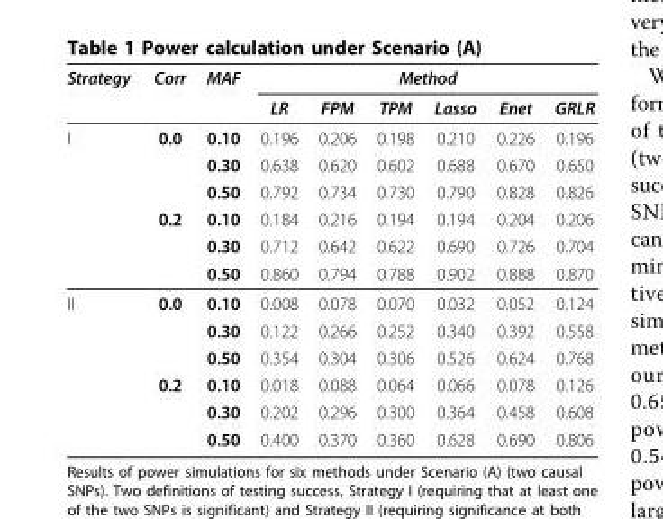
<table><thead><tr><td rowspan="2">Strategy</td><td rowspan="2">Corr</td><td rowspan="2">MAF</td><td colspan="6">Method</td></tr><tr><td>LR</td><td>FPM</td><td>TPM</td><td>Lasso</td><td>Enet</td><td>GRLR</td></tr></thead><tbody><tr><td rowspan="6">I</td><td>0.0</td><td>0.10</td><td>0.196</td><td>0.206</td><td>0.198</td><td>0.210</td><td>0.226</td><td>0.196</td></tr><tr><td></td><td>0.30</td><td>0.638</td><td>0.620</td><td>0.602</td><td>0.688</td><td>0.670</td><td>0.650</td></tr><tr><td></td><td>0.50</td><td>0.792</td><td>0.734</td><td>0.730</td><td>0.790</td><td>0.828</td><td>0.826</td></tr><tr><td>0.2</td><td>0.10</td><td>0.184</td><td>0.216</td><td>0.194</td><td>0.194</td><td>0.204</td><td>0.206</td></tr><tr><td></td><td>0.30</td><td>0.712</td><td>0.642</td><td>0.622</td><td>0.690</td><td>0.726</td><td>0.704</td></tr><tr><td></td><td>0.50</td><td>0.860</td><td>0.794</td><td>0.788</td><td>0.902</td><td>0.888</td><td>0.870</td></tr><tr><td rowspan="6">II</td><td>0.0</td><td>0.10</td><td>0.008</td><td>0.078</td><td>0.070</td><td>0.032</td><td>0.052</td><td>0.124</td></tr><tr><td></td><td>0.30</td><td>0.122</td><td>0.266</td><td>0.252</td><td>0.340</td><td>0.392</td><td>0.558</td></tr><tr><td></td><td>0.50</td><td>0.354</td><td>0.304</td><td>0.306</td><td>0.526</td><td>0.624</td><td>0.768</td></tr><tr><td>0.2</td><td>0.10</td><td>0.018</td><td>0.088</td><td>0.064</td><td>0.066</td><td>0.078</td><td>0.126</td></tr><tr><td></td><td>0.30</td><td>0.202</td><td>0.296</td><td>0.300</td><td>0.364</td><td>0.458</td><td>0.608</td></tr><tr><td></td><td>0.50</td><td>0.400</td><td>0.370</td><td>0.360</td><td>0.628</td><td>0.690</td><td>0.806</td></tr></tbody></table>